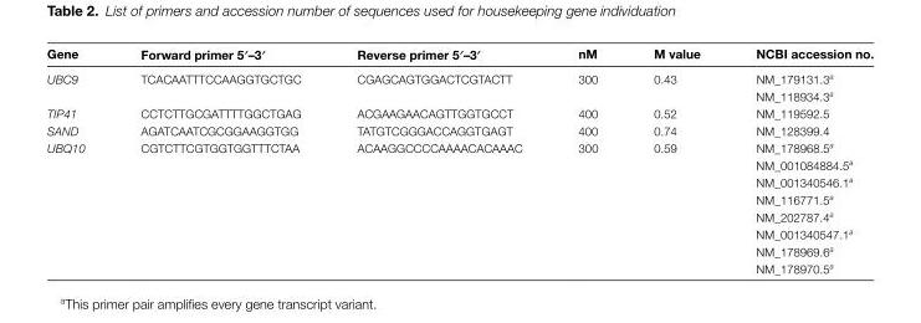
<table><thead><tr><td>Gene</td><td>Forward primer 5′–3′</td><td>Reverse primer 5′–3′</td><td>nM</td><td>M value</td><td>NCBI accession no.</td></tr></thead><tbody><tr><td>UBC9</td><td>TCACAATTTCCAAGGTGCTGC</td><td>CGAGCAGTGGACTCGTACTT</td><td>300</td><td>0.43</td><td>NM_179131.3<sup>a</sup> NM_118934.3<sup>a</sup></td></tr><tr><td>TIP41</td><td>CCTCTTGCGATTTTGGCTGAG</td><td>ACGAAGAACAGTTGGTGCCT</td><td>400</td><td>0.52</td><td>NM_119592.5</td></tr><tr><td>SAND</td><td>AGATCAATCGCGGAAGGTGG</td><td>TATGTCGGGACCAGGTGAGT</td><td>400</td><td>0.74</td><td>NM_128399.4</td></tr><tr><td>UBQ10</td><td>CGTCTTCGTGGTGGTTTCTAA</td><td>ACAAGGCCCCAAAACACAAAC</td><td>300</td><td>0.59</td><td>NM_178968.5<sup>a</sup> NM_001084884.5<sup>a</sup> NM_001340546.1<sup>a</sup> NM_116771.5<sup>a</sup> NM_202787.4<sup>a</sup> NM_001340547.1<sup>a</sup> NM_178969.6<sup>a</sup> NM_178970.5<sup>a</sup></td></tr></tbody></table>